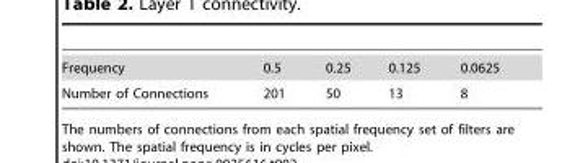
<table><tbody><tr><td>Frequency</td><td>0.5</td><td>0.25</td><td>0.125</td><td>0.0625</td></tr><tr><td>Number of Connections</td><td>201</td><td>50</td><td>13</td><td>8</td></tr></tbody></table>